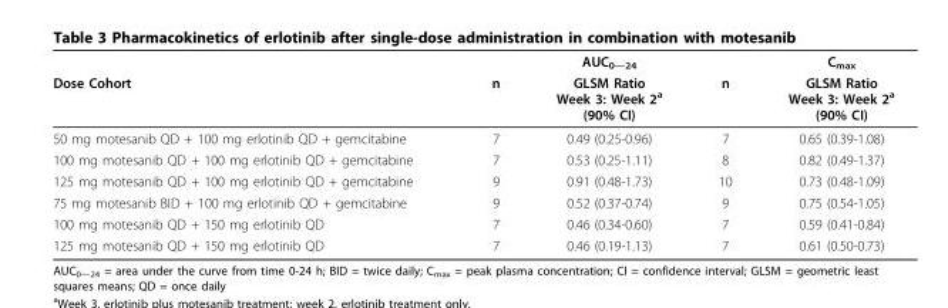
<table><thead><tr><td rowspan="2">Dose Cohort</td><td rowspan="2">n</td><td rowspan="2">AUC<sub>0—24</sub> GLSM Ratio Week 3: Week 2<sup>a</sup> (90% CI)</td><td rowspan="2">n</td><td rowspan="2">C<sub>max</sub> GLSM Ratio Week 3: Week 2<sup>a</sup> (90% CI)</td></tr><tr></tr></thead><tbody><tr><td>50 mg motesanib QD + 100 mg erlotinib QD + gemcitabine</td><td>7</td><td>0.49 (0.25-0.96)</td><td>7</td><td>0.65 (0.39-1.08)</td></tr><tr><td>100 mg motesanib QD + 100 mg erlotinib QD + gemcitabine</td><td>7</td><td>0.53 (0.25-1.11)</td><td>8</td><td>0.82 (0.49-1.37)</td></tr><tr><td>125 mg motesanib QD + 100 mg erlotinib QD + gemcitabine</td><td>9</td><td>0.91 (0.48-1.73)</td><td>10</td><td>0.73 (0.48-1.09)</td></tr><tr><td>75 mg motesanib BID + 100 mg erlotinib QD + gemcitabine</td><td>9</td><td>0.52 (0.37-0.74)</td><td>9</td><td>0.75 (0.54-1.05)</td></tr><tr><td>100 mg motesanib QD + 150 mg erlotinib QD</td><td>7</td><td>0.46 (0.34-0.60)</td><td>7</td><td>0.59 (0.41-0.84)</td></tr><tr><td>125 mg motesanib QD + 150 mg erlotinib QD</td><td>7</td><td>0.46 (0.19-1.13)</td><td>7</td><td>0.61 (0.50-0.73)</td></tr></tbody></table>